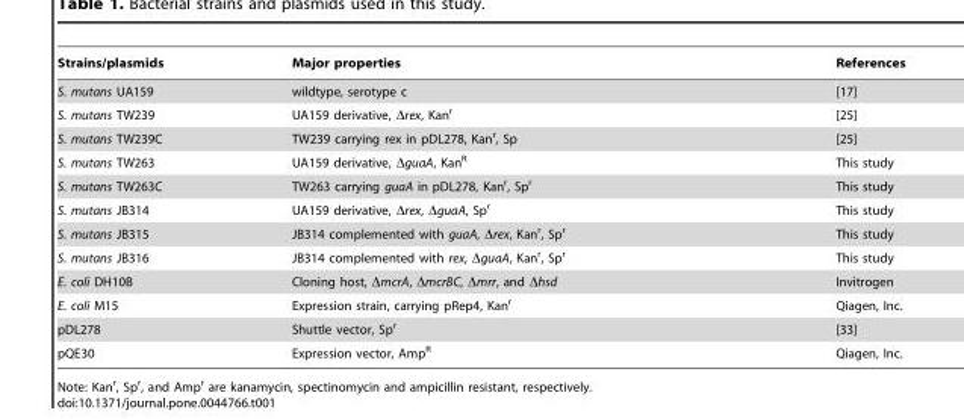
<table><thead><tr><td>Strains/plasmids</td><td>Major properties</td><td>References</td></tr></thead><tbody><tr><td>S. mutans UA159</td><td>wildtype, serotype c</td><td>[17]</td></tr><tr><td>S. mutans TW239</td><td>UA159 derivative, Δrex, Kan<sup>r</sup></td><td>[25]</td></tr><tr><td>S. mutans TW239C</td><td>TW239 carrying rex in pDL278, Kan<sup>r</sup>, Sp</td><td>[25]</td></tr><tr><td>S. mutans TW263</td><td>UA159 derivative, ΔguaA, Kan<sup>R</sup></td><td>This study</td></tr><tr><td>S. mutans TW263C</td><td>TW263 carrying guaA in pDL278, Kan<sup>r</sup>, Sp<sup>r</sup></td><td>This study</td></tr><tr><td>S. mutans JB314</td><td>UA159 derivative, Δrex, ΔguaA, Sp<sup>r</sup></td><td>This study</td></tr><tr><td>S. mutans JB315</td><td>JB314 complemented with guaA, Δrex, Kan<sup>r</sup>, Sp<sup>r</sup></td><td>This study</td></tr><tr><td>S. mutans JB316</td><td>JB314 complemented with rex, ΔguaA, Kan<sup>r</sup>, Sp<sup>r</sup></td><td>This study</td></tr><tr><td>E. coli DH10B</td><td>Cloning host, ΔmcrA, ΔmcrBC, Δmrr, and Δhsd</td><td>Invitrogen</td></tr><tr><td>E. coli M15</td><td>Expression strain, carrying pRep4, Kan<sup>r</sup></td><td>Qiagen, Inc.</td></tr><tr><td>pDL278</td><td>Shuttle vector, Sp<sup>r</sup></td><td>[33]</td></tr><tr><td>pQE30</td><td>Expression vector, Amp<sup>R</sup></td><td>Qiagen, Inc.</td></tr></tbody></table>